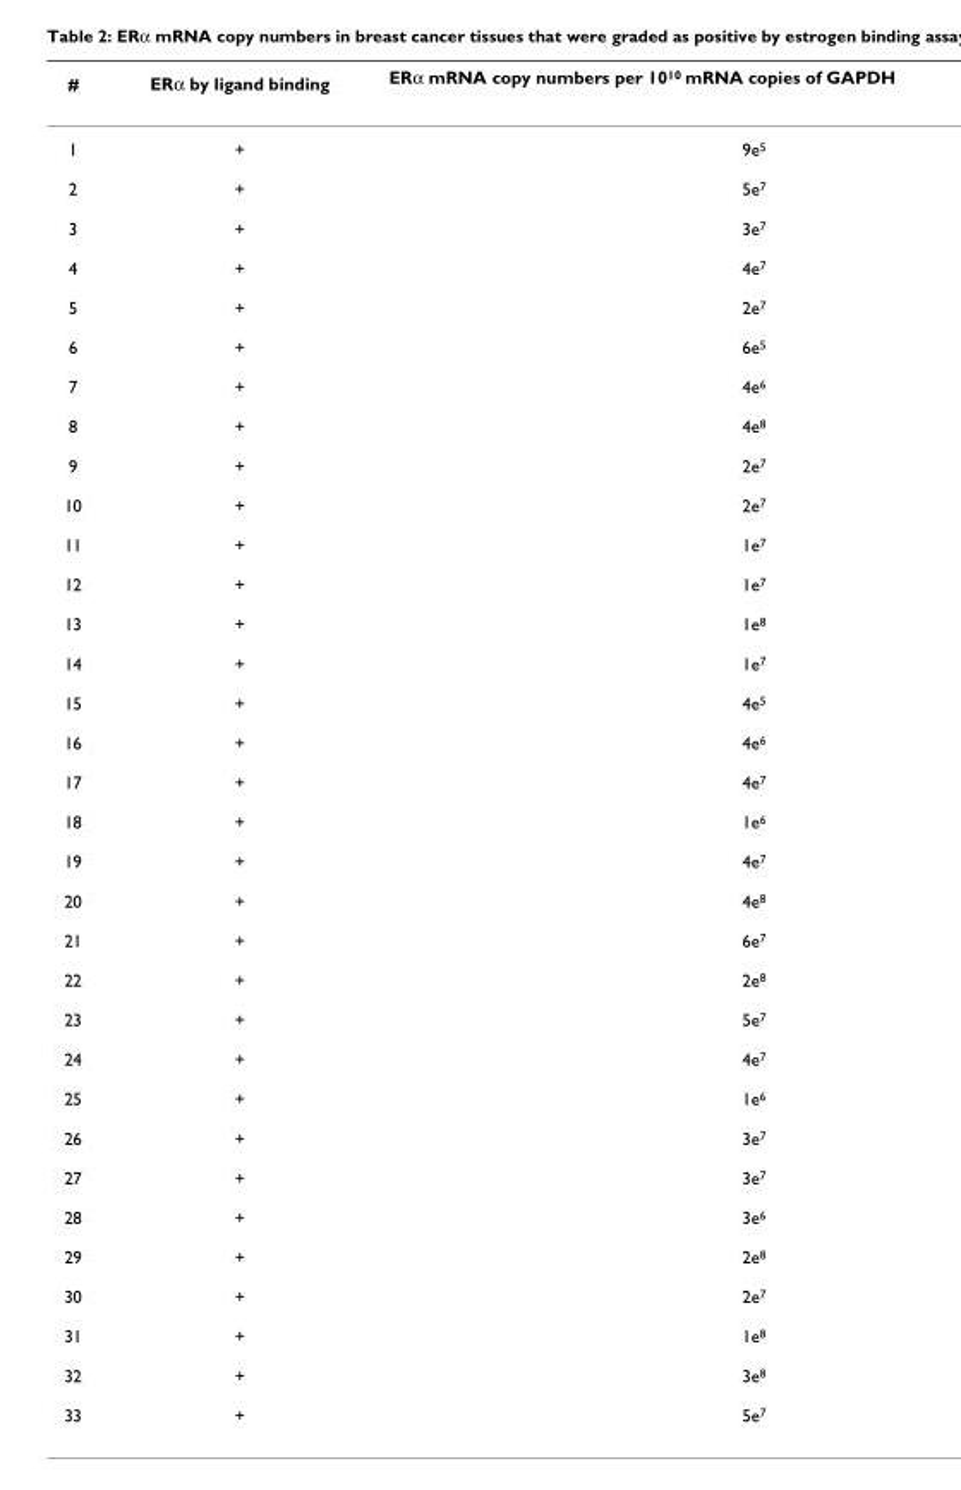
<table><thead><tr><td>#</td><td>ERα by ligand binding</td><td>ERα mRNA copy numbers per 1010 mRNA copies of GAPDH</td></tr></thead><tbody><tr><td>1</td><td>+</td><td>9e5</td></tr><tr><td>2</td><td>+</td><td>5e7</td></tr><tr><td>3</td><td>+</td><td>3e7</td></tr><tr><td>4</td><td>+</td><td>4e7</td></tr><tr><td>5</td><td>+</td><td>2e7</td></tr><tr><td>6</td><td>+</td><td>6e5</td></tr><tr><td>7</td><td>+</td><td>4e6</td></tr><tr><td>8</td><td>+</td><td>4e8</td></tr><tr><td>9</td><td>+</td><td>2e7</td></tr><tr><td>10</td><td>+</td><td>2e7</td></tr><tr><td>11</td><td>+</td><td>1e7</td></tr><tr><td>12</td><td>+</td><td>1e7</td></tr><tr><td>13</td><td>+</td><td>1e8</td></tr><tr><td>14</td><td>+</td><td>1e7</td></tr><tr><td>15</td><td>+</td><td>4e5</td></tr><tr><td>16</td><td>+</td><td>4e6</td></tr><tr><td>17</td><td>+</td><td>4e7</td></tr><tr><td>18</td><td>+</td><td>1e6</td></tr><tr><td>19</td><td>+</td><td>4e7</td></tr><tr><td>20</td><td>+</td><td>4e8</td></tr><tr><td>21</td><td>+</td><td>6e7</td></tr><tr><td>22</td><td>+</td><td>2e8</td></tr><tr><td>23</td><td>+</td><td>5e7</td></tr><tr><td>24</td><td>+</td><td>4e7</td></tr><tr><td>25</td><td>+</td><td>1e6</td></tr><tr><td>26</td><td>+</td><td>3e7</td></tr><tr><td>27</td><td>+</td><td>3e7</td></tr><tr><td>28</td><td>+</td><td>3e6</td></tr><tr><td>29</td><td>+</td><td>2e8</td></tr><tr><td>30</td><td>+</td><td>2e7</td></tr><tr><td>31</td><td>+</td><td>1e8</td></tr><tr><td>32</td><td>+</td><td>3e8</td></tr><tr><td>33</td><td>+</td><td>5e7</td></tr></tbody></table>